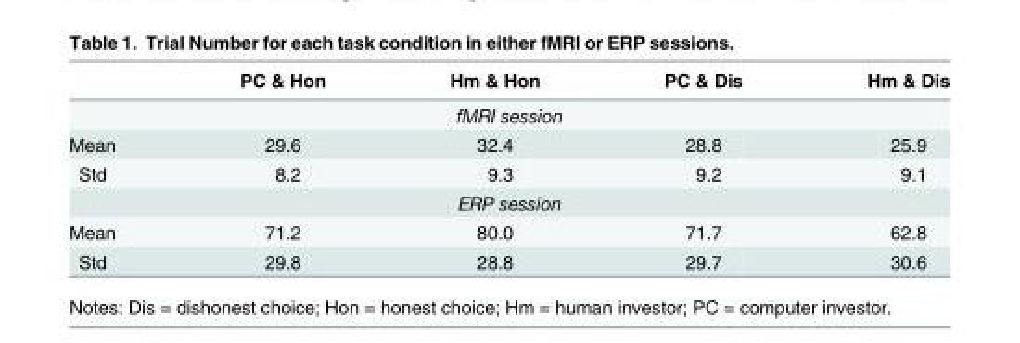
<table><thead><tr><td></td><td>PC &amp; Hon</td><td>Hm &amp; Hon</td><td>PC &amp; Dis</td><td>Hm &amp; Dis</td></tr></thead><tbody><tr><td colspan="5">fMRI session</td></tr><tr><td>Mean</td><td>29.6</td><td>32.4</td><td>28.8</td><td>25.9</td></tr><tr><td>Std</td><td>8.2</td><td>9.3</td><td>9.2</td><td>9.1</td></tr><tr><td colspan="5">ERP session</td></tr><tr><td>Mean</td><td>71.2</td><td>80.0</td><td>71.7</td><td>62.8</td></tr><tr><td>Std</td><td>29.8</td><td>28.8</td><td>29.7</td><td>30.6</td></tr></tbody></table>